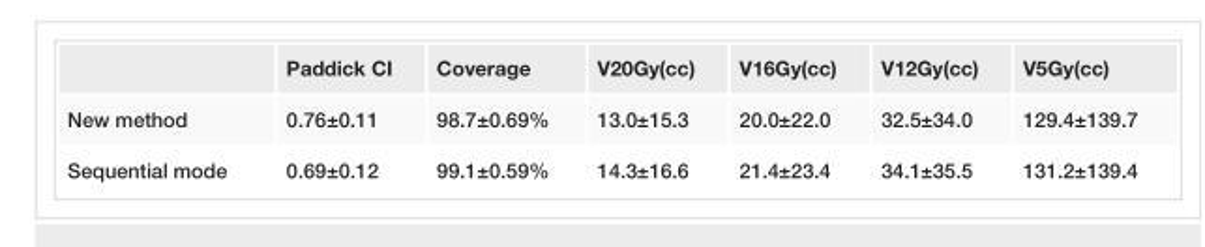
<table><thead><tr><td></td><td>Paddick CI</td><td>Coverage</td><td>V20Gy(cc)</td><td>V16Gy(cc)</td><td>V12Gy(cc)</td><td>V5Gy(cc)</td></tr></thead><tbody><tr><td>New method</td><td>0.76±0.11</td><td>98.7±0.69%</td><td>13.0±15.3</td><td>20.0±22.0</td><td>32.5±34.0</td><td>129.4±139.7</td></tr><tr><td>Sequential mode</td><td>0.69±0.12</td><td>99.1±0.59%</td><td>14.3±16.6</td><td>21.4±23.4</td><td>34.1±35.5</td><td>131.2±139.4</td></tr></tbody></table>